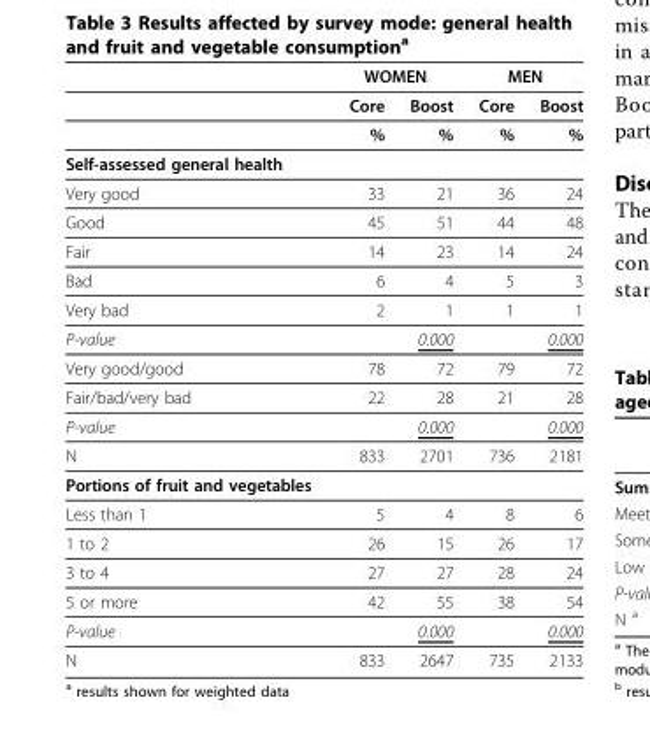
<table><thead><tr><td rowspan="2"></td><td colspan="2">WOMEN</td><td colspan="2">MEN</td></tr><tr><td>Core</td><td>Boost</td><td>Core</td><td>Boost</td></tr></thead><tbody><tr><td></td><td>%</td><td>%</td><td>%</td><td>%</td></tr><tr><td colspan="5">Self-assessed general health</td></tr><tr><td>Very good</td><td>33</td><td>21</td><td>36</td><td>24</td></tr><tr><td>Good</td><td>45</td><td>51</td><td>44</td><td>48</td></tr><tr><td>Fair</td><td>14</td><td>23</td><td>14</td><td>24</td></tr><tr><td>Bad</td><td>6</td><td>4</td><td>5</td><td>3</td></tr><tr><td>Very bad</td><td>2</td><td>1</td><td>1</td><td>1</td></tr><tr><td>P-value</td><td></td><td>0.000</td><td></td><td>0.000</td></tr><tr><td>Very good/good</td><td>78</td><td>72</td><td>79</td><td>72</td></tr><tr><td>Fair/bad/very bad</td><td>22</td><td>28</td><td>21</td><td>28</td></tr><tr><td>P-value</td><td></td><td>0.000</td><td></td><td>0.000</td></tr><tr><td>N</td><td>833</td><td>2701</td><td>736</td><td>2181</td></tr><tr><td colspan="5">Portions of fruit and vegetables</td></tr><tr><td>Less than 1</td><td>5</td><td>4</td><td>8</td><td>6</td></tr><tr><td>1 to 2</td><td>26</td><td>15</td><td>26</td><td>17</td></tr><tr><td>3 to 4</td><td>27</td><td>27</td><td>28</td><td>24</td></tr><tr><td>5 or more</td><td>42</td><td>55</td><td>38</td><td>54</td></tr><tr><td>P-value</td><td></td><td>0.000</td><td></td><td>0.000</td></tr><tr><td>N</td><td>833</td><td>2647</td><td>735</td><td>2133</td></tr></tbody></table>